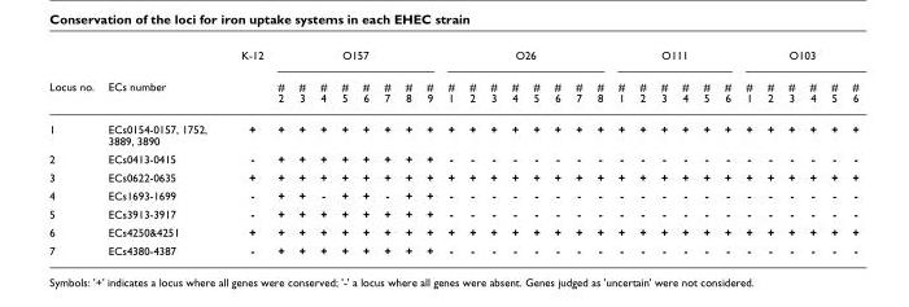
<table><thead><tr><td rowspan="2">Locus no.</td><td rowspan="2">ECs number</td><td rowspan="2">K-12</td><td colspan="8">O157</td><td colspan="8">O26</td><td colspan="6">O111</td><td colspan="6">O103</td></tr><tr><td># 2</td><td># 3</td><td># 4</td><td># 5</td><td># 6</td><td># 7</td><td># 8</td><td># 9</td><td># 1</td><td># 2</td><td># 3</td><td># 4</td><td># 5</td><td># 6</td><td># 7</td><td># 8</td><td># 1</td><td># 2</td><td># 3</td><td># 4</td><td># 5</td><td># 6</td><td># 1</td><td># 2</td><td># 3</td><td># 4</td><td># 5</td><td># 6</td></tr></thead><tbody><tr><td>1</td><td>ECs0154-0157, 1752, 3889, 3890</td><td>+</td><td>+</td><td>+</td><td>+</td><td>+</td><td>+</td><td>+</td><td>+</td><td>+</td><td>+</td><td>+</td><td>+</td><td>+</td><td>+</td><td>+</td><td>+</td><td>+</td><td>+</td><td>+</td><td>+</td><td>+</td><td>+</td><td>+</td><td>+</td><td>+</td><td>+</td><td>+</td><td>+</td><td>+</td></tr><tr><td>2</td><td>ECs0413-0415</td><td>-</td><td>+</td><td>+</td><td>+</td><td>+</td><td>+</td><td>+</td><td>+</td><td>+</td><td>-</td><td>-</td><td>-</td><td>-</td><td>-</td><td>-</td><td>-</td><td>-</td><td>-</td><td>-</td><td>-</td><td>-</td><td>-</td><td>-</td><td>-</td><td>-</td><td>-</td><td>-</td><td>-</td><td>-</td></tr><tr><td>3</td><td>ECs0622-0635</td><td>+</td><td>+</td><td>+</td><td>+</td><td>+</td><td>+</td><td>+</td><td>+</td><td>+</td><td>+</td><td>+</td><td>+</td><td>+</td><td>+</td><td>+</td><td>+</td><td>+</td><td>+</td><td>+</td><td>+</td><td>+</td><td>+</td><td>+</td><td>+</td><td>+</td><td>+</td><td>+</td><td>+</td><td>+</td></tr><tr><td>4</td><td>ECs1693-1699</td><td>-</td><td>+</td><td>+</td><td>-</td><td>+</td><td>+</td><td>-</td><td>+</td><td>+</td><td>-</td><td>-</td><td>-</td><td>-</td><td>-</td><td>-</td><td>-</td><td>-</td><td>-</td><td>-</td><td>-</td><td>-</td><td>-</td><td>-</td><td>-</td><td>-</td><td>-</td><td>-</td><td>-</td><td>-</td></tr><tr><td>5</td><td>ECs3913-3917</td><td>-</td><td>+</td><td>+</td><td>+</td><td>+</td><td>+</td><td>+</td><td>+</td><td>+</td><td>-</td><td>-</td><td>-</td><td>-</td><td>-</td><td>-</td><td>-</td><td>-</td><td>-</td><td>-</td><td>-</td><td>-</td><td>-</td><td>-</td><td>-</td><td>-</td><td>-</td><td>-</td><td>-</td><td>-</td></tr><tr><td>6</td><td>ECs4250&amp;4251</td><td>+</td><td>+</td><td>+</td><td>+</td><td>+</td><td>+</td><td>+</td><td>+</td><td>+</td><td>+</td><td>+</td><td>+</td><td>+</td><td>+</td><td>+</td><td>+</td><td>+</td><td>+</td><td>+</td><td>+</td><td>+</td><td>+</td><td>+</td><td>+</td><td>+</td><td>+</td><td>+</td><td>+</td><td>+</td></tr><tr><td>7</td><td>ECs4380-4387</td><td>-</td><td>+</td><td>+</td><td>+</td><td>+</td><td>+</td><td>+</td><td>+</td><td>+</td><td>-</td><td>-</td><td>-</td><td>-</td><td>-</td><td>-</td><td>-</td><td>-</td><td>-</td><td>-</td><td>-</td><td>-</td><td>-</td><td>-</td><td>-</td><td>-</td><td>-</td><td>-</td><td>-</td><td>-</td></tr></tbody></table>